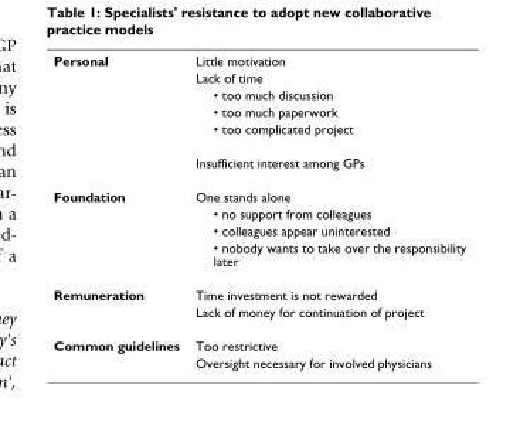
<table><tbody><tr><td rowspan="6">Personal</td><td>Little motivation</td></tr><tr><td>Lack of time</td></tr><tr><td>• too much discussion</td></tr><tr><td>• too much paperwork</td></tr><tr><td>• too complicated project</td></tr><tr><td>Insufficient interest among GPs</td></tr><tr><td rowspan="4">Foundation</td><td>One stands alone</td></tr><tr><td>• no support from colleagues</td></tr><tr><td>• colleagues appear uninterested</td></tr><tr><td>• nobody wants to take over the responsibility later</td></tr><tr><td rowspan="2">Remuneration</td><td>Time investment is not rewarded</td></tr><tr><td>Lack of money for continuation of project</td></tr><tr><td rowspan="2">Common guidelines</td><td>Too restrictive</td></tr><tr><td>Oversight necessary for involved physicians</td></tr></tbody></table>